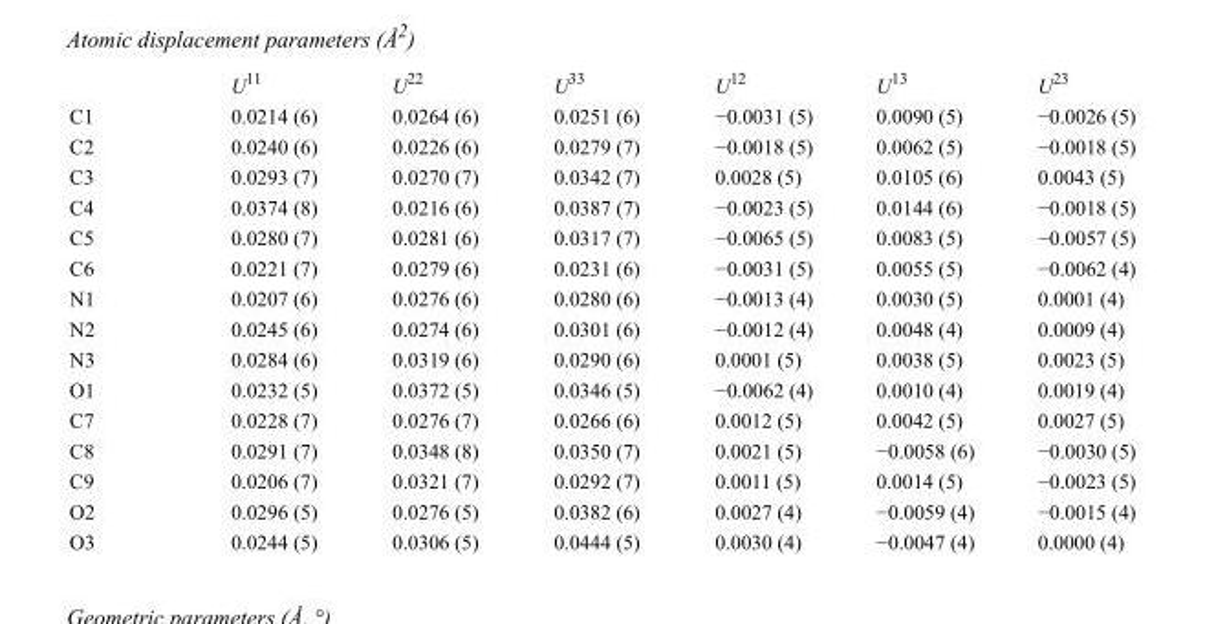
<table><thead><tr><td></td><td>U<sup>11</sup></td><td>U<sup>22</sup></td><td>U<sup>33</sup></td><td>U<sup>12</sup></td><td>U<sup>13</sup></td><td>U<sup>23</sup></td></tr></thead><tbody><tr><td>C1</td><td>0.0214 (6)</td><td>0.0264 (6)</td><td>0.0251 (6)</td><td>−0.0031 (5)</td><td>0.0090 (5)</td><td>−0.0026 (5)</td></tr><tr><td>C2</td><td>0.0240 (6)</td><td>0.0226 (6)</td><td>0.0279 (7)</td><td>−0.0018 (5)</td><td>0.0062 (5)</td><td>−0.0018 (5)</td></tr><tr><td>C3</td><td>0.0293 (7)</td><td>0.0270 (7)</td><td>0.0342 (7)</td><td>0.0028 (5)</td><td>0.0105 (6)</td><td>0.0043 (5)</td></tr><tr><td>C4</td><td>0.0374 (8)</td><td>0.0216 (6)</td><td>0.0387 (7)</td><td>−0.0023 (5)</td><td>0.0144 (6)</td><td>−0.0018 (5)</td></tr><tr><td>C5</td><td>0.0280 (7)</td><td>0.0281 (6)</td><td>0.0317 (7)</td><td>−0.0065 (5)</td><td>0.0083 (5)</td><td>−0.0057 (5)</td></tr><tr><td>C6</td><td>0.0221 (7)</td><td>0.0279 (6)</td><td>0.0231 (6)</td><td>−0.0031 (5)</td><td>0.0055 (5)</td><td>−0.0062 (4)</td></tr><tr><td>N1</td><td>0.0207 (6)</td><td>0.0276 (6)</td><td>0.0280 (6)</td><td>−0.0013 (4)</td><td>0.0030 (5)</td><td>0.0001 (4)</td></tr><tr><td>N2</td><td>0.0245 (6)</td><td>0.0274 (6)</td><td>0.0301 (6)</td><td>−0.0012 (4)</td><td>0.0048 (4)</td><td>0.0009 (4)</td></tr><tr><td>N3</td><td>0.0284 (6)</td><td>0.0319 (6)</td><td>0.0290 (6)</td><td>0.0001 (5)</td><td>0.0038 (5)</td><td>0.0023 (5)</td></tr><tr><td>O1</td><td>0.0232 (5)</td><td>0.0372 (5)</td><td>0.0346 (5)</td><td>−0.0062 (4)</td><td>0.0010 (4)</td><td>0.0019 (4)</td></tr><tr><td>C7</td><td>0.0228 (7)</td><td>0.0276 (7)</td><td>0.0266 (6)</td><td>0.0012 (5)</td><td>0.0042 (5)</td><td>0.0027 (5)</td></tr><tr><td>C8</td><td>0.0291 (7)</td><td>0.0348 (8)</td><td>0.0350 (7)</td><td>0.0021 (5)</td><td>−0.0058 (6)</td><td>−0.0030 (5)</td></tr><tr><td>C9</td><td>0.0206 (7)</td><td>0.0321 (7)</td><td>0.0292 (7)</td><td>0.0011 (5)</td><td>0.0014 (5)</td><td>−0.0023 (5)</td></tr><tr><td>O2</td><td>0.0296 (5)</td><td>0.0276 (5)</td><td>0.0382 (6)</td><td>0.0027 (4)</td><td>−0.0059 (4)</td><td>−0.0015 (4)</td></tr><tr><td>O3</td><td>0.0244 (5)</td><td>0.0306 (5)</td><td>0.0444 (5)</td><td>0.0030 (4)</td><td>−0.0047 (4)</td><td>0.0000 (4)</td></tr></tbody></table>